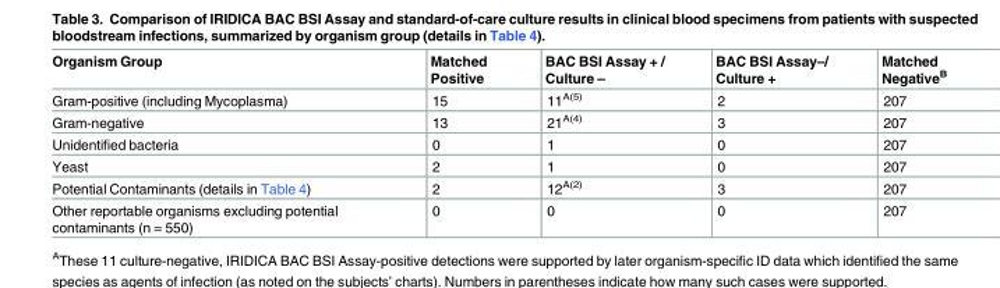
<table><thead><tr><td>Organism Group</td><td>Matched Positive</td><td>BAC BSI Assay + / Culture –</td><td>BAC BSI Assay–/ Culture +</td><td>Matched Negative<sup>B</sup></td></tr></thead><tbody><tr><td>Gram-positive (including Mycoplasma)</td><td>15</td><td>11<sup>A(5)</sup></td><td>2</td><td>207</td></tr><tr><td>Gram-negative</td><td>13</td><td>21<sup>A(4)</sup></td><td>3</td><td>207</td></tr><tr><td>Unidentified bacteria</td><td>0</td><td>1</td><td>0</td><td>207</td></tr><tr><td>Yeast</td><td>2</td><td>1</td><td>0</td><td>207</td></tr><tr><td>Potential Contaminants (details in Table 4)</td><td>2</td><td>12<sup>A(2)</sup></td><td>3</td><td>207</td></tr><tr><td>Other reportable organisms excluding potential contaminants (n = 550)</td><td>0</td><td>0</td><td>0</td><td>207</td></tr></tbody></table>